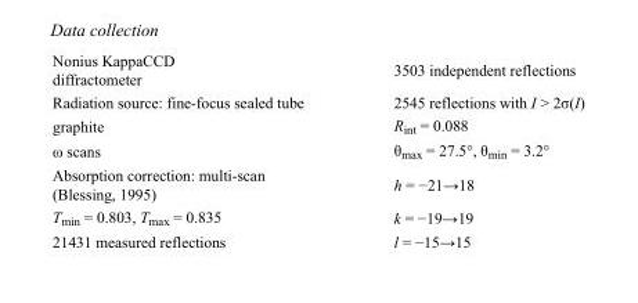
<table><tbody><tr><td>Nonius KappaCCD diffractometer</td><td>3503 independent reflections</td></tr><tr><td>Radiation source: fine-focus sealed tube</td><td>2545 reflections with I &gt; 2σ(I)</td></tr><tr><td>graphite</td><td>R<sub>int</sub> = 0.088</td></tr><tr><td>ω scans</td><td>θ<sub>max</sub> = 27.5°, θ<sub>min</sub> = 3.2°</td></tr><tr><td>Absorption correction: multi-scan (Blessing, 1995)</td><td>h = −21→18</td></tr><tr><td>T<sub>min</sub> = 0.803, T<sub>max</sub> = 0.835</td><td>k = −19→19</td></tr><tr><td>21431 measured reflections</td><td>l = −15→15</td></tr></tbody></table>